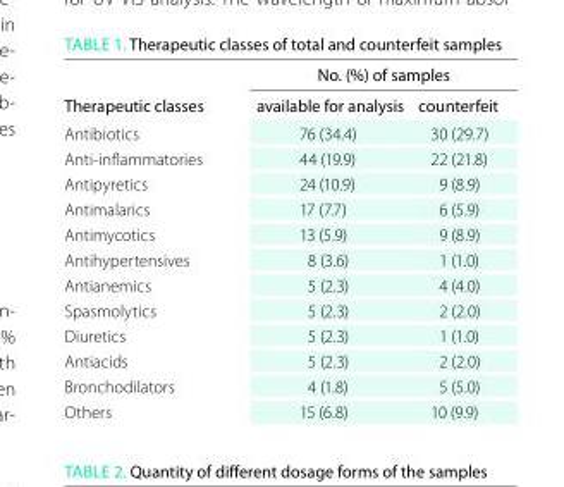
<table><thead><tr><td rowspan="2">therapeutic classes</td><td colspan="2">No. (%) of samples</td></tr><tr><td>available for analysis</td><td>counterfeit</td></tr></thead><tbody><tr><td>Antibiotics</td><td>76 (34.4)</td><td>30 (29.7)</td></tr><tr><td>Anti-inflammatories</td><td>44 (19.9)</td><td>22 (21.8)</td></tr><tr><td>Antipyretics</td><td>24 (10.9)</td><td>9 (8.9)</td></tr><tr><td>Antimalarics</td><td>17 (7.7)</td><td>6 (5.9)</td></tr><tr><td>Antimycotics</td><td>13 (5.9)</td><td>9 (8.9)</td></tr><tr><td>Antihypertensives</td><td>8 (3.6)</td><td>1 (1.0)</td></tr><tr><td>Antianemics</td><td>5 (2.3)</td><td>4 (4.0)</td></tr><tr><td>Spasmolytics</td><td>5 (2.3)</td><td>2 (2.0)</td></tr><tr><td>Diuretics</td><td>5 (2.3)</td><td>1 (1.0)</td></tr><tr><td>Antiacids</td><td>5 (2.3)</td><td>2 (2.0)</td></tr><tr><td>Bronchodilators</td><td>4 (1.8)</td><td>5 (5.0)</td></tr><tr><td>Others</td><td>15 (6.8)</td><td>10 (9.9)</td></tr></tbody></table>